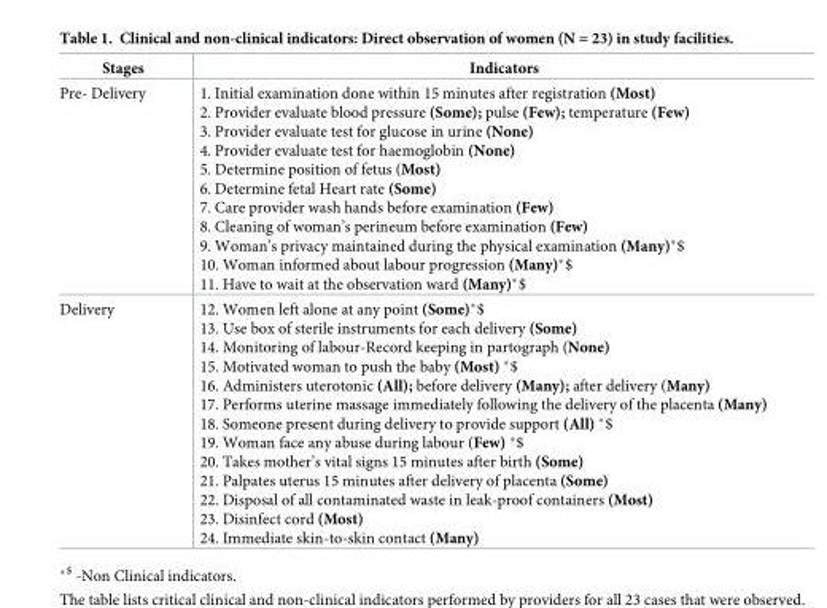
<table><thead><tr><td>Stages</td><td>Indicators</td></tr></thead><tbody><tr><td>Pre- Delivery</td><td>1. Initial examination done within 15 minutes after registration (Most) 2. Provider evaluate blood pressure (Some); pulse (Few); temperature (Few) 3. Provider evaluate test for glucose in urine (None) 4. Provider evaluate test for haemoglobin (None) 5. Determine position of fetus (Most) 6. Determine fetal Heart rate (Some) 7. Care provider wash hands before examination (Few) 8. Cleaning of woman’s perineum before examination (Few) 9. Woman’s privacy maintained during the physical examination (Many)*$ 10. Woman informed about labour progression (Many)*$ 11. Have to wait at the observation ward (Many)*$</td></tr><tr><td>Delivery</td><td>12. Women left alone at any point (Some)*$ 13. Use box of sterile instruments for each delivery (Some) 14. Monitoring of labour-Record keeping in partograph (None) 15. Motivated woman to push the baby (Most) *$ 16. Administers uterotonic (All); before delivery (Many); after delivery (Many) 17. Performs uterine massage immediately following the delivery of the placenta (Many) 18. Someone present during delivery to provide support (All) *$ 19. Woman face any abuse during labour (Few) *$ 20. Takes mother’s vital signs 15 minutes after birth (Some) 21. Palpates uterus 15 minutes after delivery of placenta (Some) 22. Disposal of all contaminated waste in leak-proof containers (Most) 23. Disinfect cord (Most) 24. Immediate skin-to-skin contact (Many)</td></tr></tbody></table>